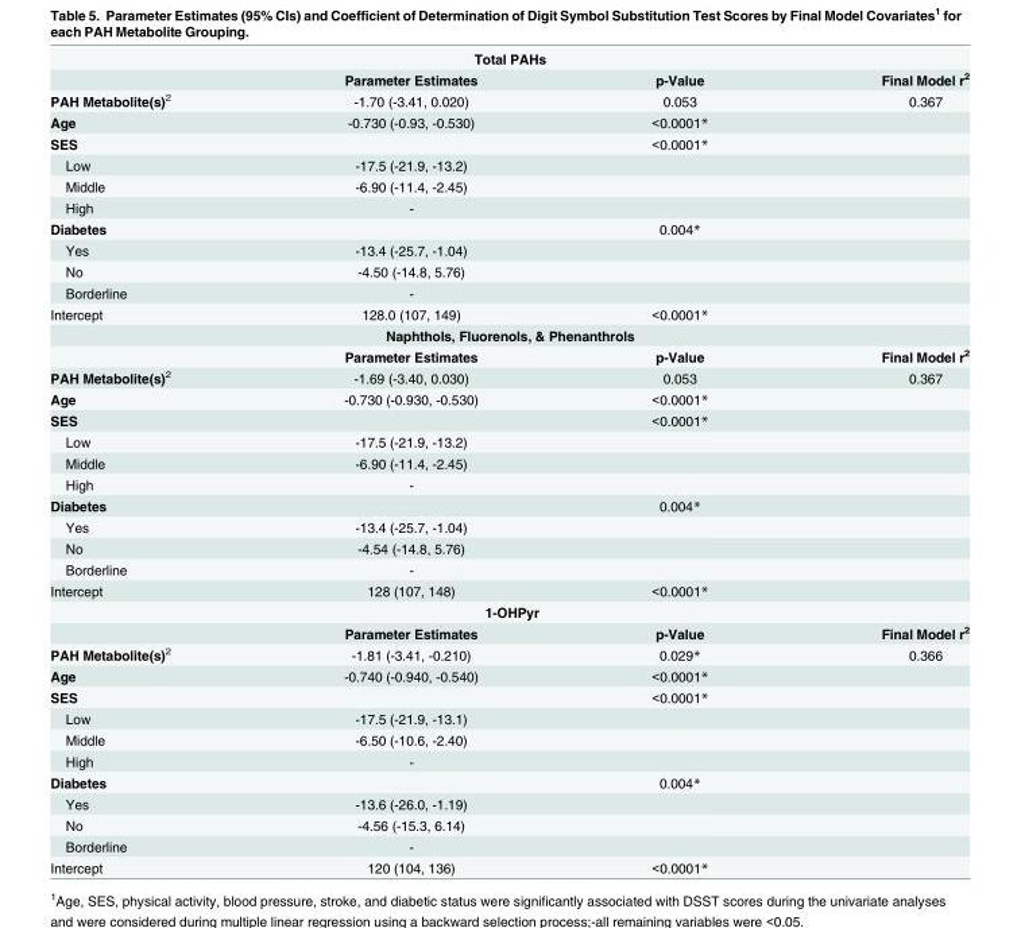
<table><tbody><tr><td colspan="4">Total PAHs</td></tr><tr><td></td><td>Parameter Estimates</td><td>p-Value</td><td>Final Model r<sup>2</sup></td></tr><tr><td>PAH Metabolite(s)<sup>2</sup></td><td>-1.70 (-3.41, 0.020)</td><td>0.053</td><td>0.367</td></tr><tr><td>Age</td><td>-0.730 (-0.93, -0.530)</td><td>&lt;0.0001*</td><td></td></tr><tr><td>SES</td><td></td><td>&lt;0.0001*</td><td></td></tr><tr><td>Low</td><td>-17.5 (-21.9, -13.2)</td><td></td><td></td></tr><tr><td>Middle</td><td>-6.90 (-11.4, -2.45)</td><td></td><td></td></tr><tr><td>High</td><td>-</td><td></td><td></td></tr><tr><td>Diabetes</td><td></td><td>0.004*</td><td></td></tr><tr><td>Yes</td><td>-13.4 (-25.7, -1.04)</td><td></td><td></td></tr><tr><td>No</td><td>-4.50 (-14.8, 5.76)</td><td></td><td></td></tr><tr><td>Borderline</td><td>-</td><td></td><td></td></tr><tr><td>Intercept</td><td>128.0 (107, 149)</td><td>&lt;0.0001*</td><td></td></tr><tr><td colspan="4">Naphthols, Fluorenols, &amp; Phenanthrols</td></tr><tr><td></td><td>Parameter Estimates</td><td>p-Value</td><td>Final Model r<sup>2</sup></td></tr><tr><td>PAH Metabolite(s)<sup>2</sup></td><td>-1.69 (-3.40, 0.030)</td><td>0.053</td><td>0.367</td></tr><tr><td>Age</td><td>-0.730 (-0.930, -0.530)</td><td>&lt;0.0001*</td><td></td></tr><tr><td>SES</td><td></td><td>&lt;0.0001*</td><td></td></tr><tr><td>Low</td><td>-17.5 (-21.9, -13.2)</td><td></td><td></td></tr><tr><td>Middle</td><td>-6.90 (-11.4, -2.45)</td><td></td><td></td></tr><tr><td>High</td><td>-</td><td></td><td></td></tr><tr><td>Diabetes</td><td></td><td>0.004*</td><td></td></tr><tr><td>Yes</td><td>-13.4 (-25.7, -1.04)</td><td></td><td></td></tr><tr><td>No</td><td>-4.54 (-14.8, 5.76)</td><td></td><td></td></tr><tr><td>Borderline</td><td>-</td><td></td><td></td></tr><tr><td>Intercept</td><td>128 (107, 148)</td><td>&lt;0.0001*</td><td></td></tr><tr><td colspan="4">1-OHPyr</td></tr><tr><td></td><td>Parameter Estimates</td><td>p-Value</td><td>Final Model r<sup>2</sup></td></tr><tr><td>PAH Metabolite(s)<sup>2</sup></td><td>-1.81 (-3.41, -0.210)</td><td>0.029*</td><td>0.366</td></tr><tr><td>Age</td><td>-0.740 (-0.940, -0.540)</td><td>&lt;0.0001*</td><td></td></tr><tr><td>SES</td><td></td><td>&lt;0.0001*</td><td></td></tr><tr><td>Low</td><td>-17.5 (-21.9, -13.1)</td><td></td><td></td></tr><tr><td>Middle</td><td>-6.50 (-10.6, -2.40)</td><td></td><td></td></tr><tr><td>High</td><td>-</td><td></td><td></td></tr><tr><td>Diabetes</td><td></td><td>0.004*</td><td></td></tr><tr><td>Yes</td><td>-13.6 (-26.0, -1.19)</td><td></td><td></td></tr><tr><td>No</td><td>-4.56 (-15.3, 6.14)</td><td></td><td></td></tr><tr><td>Borderline</td><td>-</td><td></td><td></td></tr><tr><td>Intercept</td><td>120 (104, 136)</td><td>&lt;0.0001*</td><td></td></tr></tbody></table>